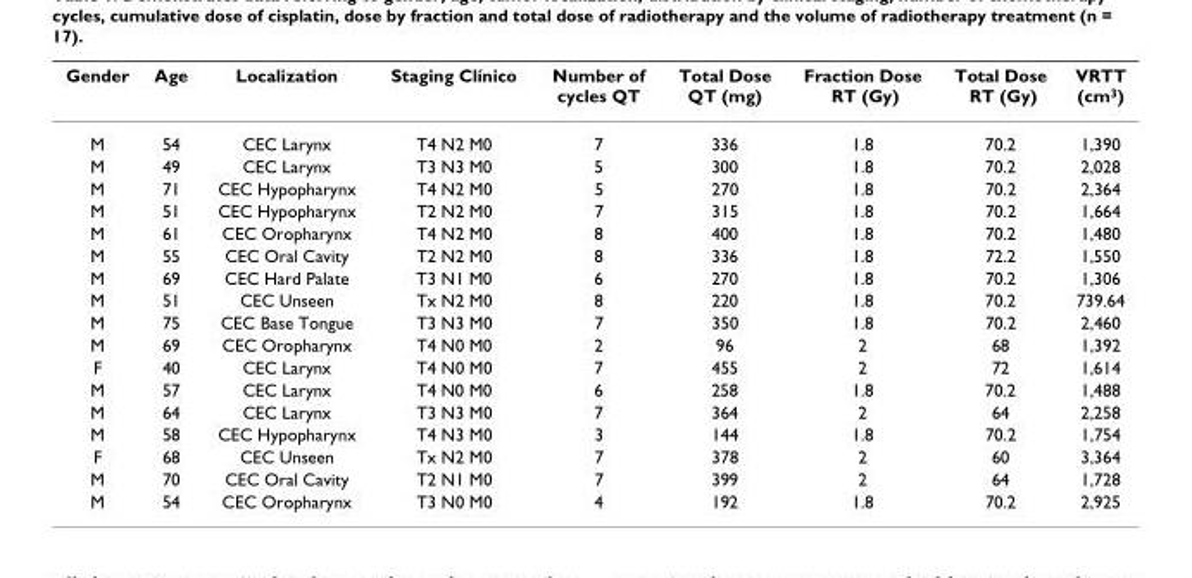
<table><thead><tr><td>Gender</td><td>Age</td><td>Localization</td><td>Staging Clínico</td><td>Number of cycles QT</td><td>Total Dose QT (mg)</td><td>Fraction Dose RT (Gy)</td><td>Total Dose RT (Gy)</td><td>VRTT (cm<sup>3</sup>)</td></tr></thead><tbody><tr><td>M</td><td>54</td><td>CEC Larynx</td><td>T4 N2 M0</td><td>7</td><td>336</td><td>1.8</td><td>70.2</td><td>1,390</td></tr><tr><td>M</td><td>49</td><td>CEC Larynx</td><td>T3 N3 M0</td><td>5</td><td>300</td><td>1.8</td><td>70.2</td><td>2,028</td></tr><tr><td>M</td><td>71</td><td>CEC Hypopharynx</td><td>T4 N2 M0</td><td>5</td><td>270</td><td>1.8</td><td>70.2</td><td>2,364</td></tr><tr><td>M</td><td>51</td><td>CEC Hypopharynx</td><td>T2 N2 M0</td><td>7</td><td>315</td><td>1.8</td><td>70.2</td><td>1,664</td></tr><tr><td>M</td><td>61</td><td>CEC Oropharynx</td><td>T4 N2 M0</td><td>8</td><td>400</td><td>1.8</td><td>70.2</td><td>1,480</td></tr><tr><td>M</td><td>55</td><td>CEC Oral Cavity</td><td>T2 N2 M0</td><td>8</td><td>336</td><td>1.8</td><td>72.2</td><td>1,550</td></tr><tr><td>M</td><td>69</td><td>CEC Hard Palate</td><td>T3 N1 M0</td><td>6</td><td>270</td><td>1.8</td><td>70.2</td><td>1,306</td></tr><tr><td>M</td><td>51</td><td>CEC Unseen</td><td>Tx N2 M0</td><td>8</td><td>220</td><td>1.8</td><td>70.2</td><td>739.64</td></tr><tr><td>M</td><td>75</td><td>CEC Base Tongue</td><td>T3 N3 M0</td><td>7</td><td>350</td><td>1.8</td><td>70.2</td><td>2,460</td></tr><tr><td>M</td><td>69</td><td>CEC Oropharynx</td><td>T4 N0 M0</td><td>2</td><td>96</td><td>2</td><td>68</td><td>1,392</td></tr><tr><td>F</td><td>40</td><td>CEC Larynx</td><td>T4 N0 M0</td><td>7</td><td>455</td><td>2</td><td>72</td><td>1,614</td></tr><tr><td>M</td><td>57</td><td>CEC Larynx</td><td>T4 N0 M0</td><td>6</td><td>258</td><td>1.8</td><td>70.2</td><td>1,488</td></tr><tr><td>M</td><td>64</td><td>CEC Larynx</td><td>T3 N3 M0</td><td>7</td><td>364</td><td>2</td><td>64</td><td>2,258</td></tr><tr><td>M</td><td>58</td><td>CEC Hypopharynx</td><td>T4 N3 M0</td><td>3</td><td>144</td><td>1.8</td><td>70.2</td><td>1,754</td></tr><tr><td>F</td><td>68</td><td>CEC Unseen</td><td>Tx N2 M0</td><td>7</td><td>378</td><td>2</td><td>60</td><td>3,364</td></tr><tr><td>M</td><td>70</td><td>CEC Oral Cavity</td><td>T2 N1 M0</td><td>7</td><td>399</td><td>2</td><td>64</td><td>1,728</td></tr><tr><td>M</td><td>54</td><td>CEC Oropharynx</td><td>T3 N0 M0</td><td>4</td><td>192</td><td>1.8</td><td>70.2</td><td>2,925</td></tr></tbody></table>